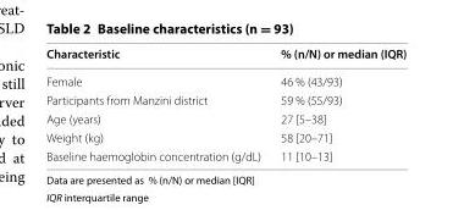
<table><thead><tr><td>Characteristic</td><td>% (n/N) or median (IQR)</td></tr></thead><tbody><tr><td>Female</td><td>46 % (43/93)</td></tr><tr><td>Participants from Manzini district</td><td>59 % (55/93)</td></tr><tr><td>Age (years)</td><td>27 [5–38]</td></tr><tr><td>Weight (kg)</td><td>58 [20–71]</td></tr><tr><td>Baseline haemoglobin concentration (g/dL)</td><td>11 [10–13]</td></tr></tbody></table>